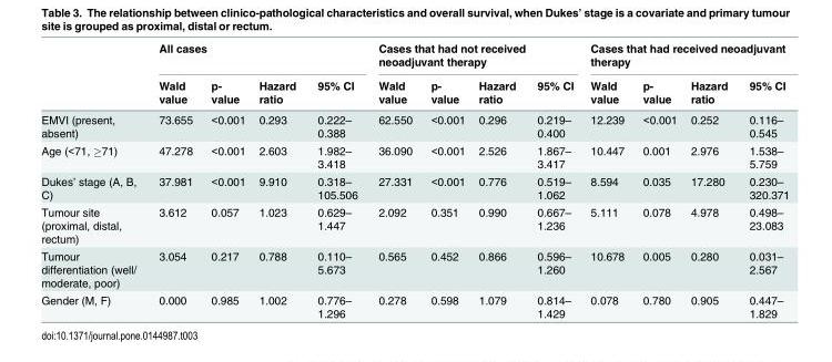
<table><thead><tr><td rowspan="2"></td><td colspan="4">All cases</td><td colspan="4">Cases that had not received neoadjuvant therapy</td><td colspan="4">Cases that had received neoadjuvant therapy</td></tr><tr><td>Wald value</td><td>p- value</td><td>Hazard ratio</td><td>95% CI</td><td>Wald value</td><td>p- value</td><td>Hazard ratio</td><td>95% CI</td><td>Wald value</td><td>p- value</td><td>Hazard ratio</td><td>95% CI</td></tr></thead><tbody><tr><td>EMVI (present, absent)</td><td>73.655</td><td>&lt;0.001</td><td>0.293</td><td>0.222– 0.388</td><td>62.550</td><td>&lt;0.001</td><td>0.296</td><td>0.219– 0.400</td><td>12.239</td><td>&lt;0.001</td><td>0.252</td><td>0.116– 0.545</td></tr><tr><td>Age (&lt;71, ≥71)</td><td>47.278</td><td>&lt;0.001</td><td>2.603</td><td>1.982– 3.418</td><td>36.090</td><td>&lt;0.001</td><td>2.526</td><td>1.867– 3.417</td><td>10.447</td><td>0.001</td><td>2.976</td><td>1.538– 5.759</td></tr><tr><td>Dukes’ stage (A, B, C)</td><td>37.981</td><td>&lt;0.001</td><td>9.910</td><td>0.318– 105.506</td><td>27.331</td><td>&lt;0.001</td><td>0.776</td><td>0.519– 1.062</td><td>8.594</td><td>0.035</td><td>17.280</td><td>0.230– 320.371</td></tr><tr><td>Tumour site (proximal, distal, rectum)</td><td>3.612</td><td>0.057</td><td>1.023</td><td>0.629– 1.447</td><td>2.092</td><td>0.351</td><td>0.990</td><td>0.667– 1.236</td><td>5.111</td><td>0.078</td><td>4.978</td><td>0.498– 23.083</td></tr><tr><td>Tumour differentiation (well/ moderate, poor)</td><td>3.054</td><td>0.217</td><td>0.788</td><td>0.110– 5.673</td><td>0.565</td><td>0.452</td><td>0.866</td><td>0.596– 1.260</td><td>10.678</td><td>0.005</td><td>0.280</td><td>0.031– 2.567</td></tr><tr><td>Gender (M, F)</td><td>0.000</td><td>0.985</td><td>1.002</td><td>0.776– 1.296</td><td>0.278</td><td>0.598</td><td>1.079</td><td>0.814– 1.429</td><td>0.078</td><td>0.780</td><td>0.905</td><td>0.447– 1.829</td></tr></tbody></table>